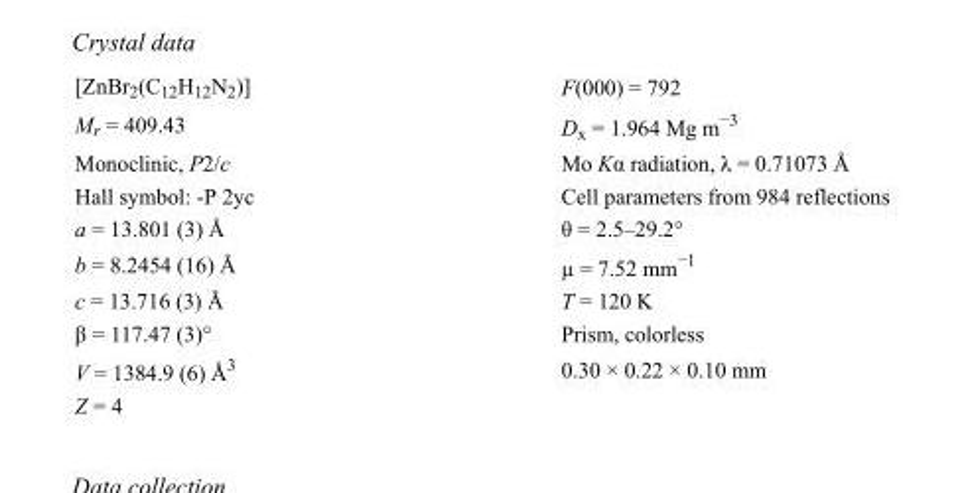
<table><tbody><tr><td>[ZnBr<sub>2</sub>(C<sub>12</sub>H<sub>12</sub>N<sub>2</sub>)]</td><td>F(000) = 792</td></tr><tr><td>M<sub>r</sub> = 409.43</td><td>D<sub>x</sub> = 1.964 Mg m<sup>−3</sup></td></tr><tr><td>Monoclinic, P2/c</td><td>Mo Kα radiation, λ = 0.71073 Å</td></tr><tr><td>Hall symbol: -P 2yc</td><td>Cell parameters from 984 reflections</td></tr><tr><td>a = 13.801 (3) Å</td><td>θ = 2.5–29.2°</td></tr><tr><td>b = 8.2454 (16) Å</td><td>µ = 7.52 mm<sup>−1</sup></td></tr><tr><td>c = 13.716 (3) Å</td><td>T = 120 K</td></tr><tr><td>β = 117.47 (3)°</td><td>Prism, colorless</td></tr><tr><td>V = 1384.9 (6) Å<sup>3</sup></td><td>0.30 × 0.22 × 0.10 mm</td></tr><tr><td>Z = 4</td><td></td></tr></tbody></table>